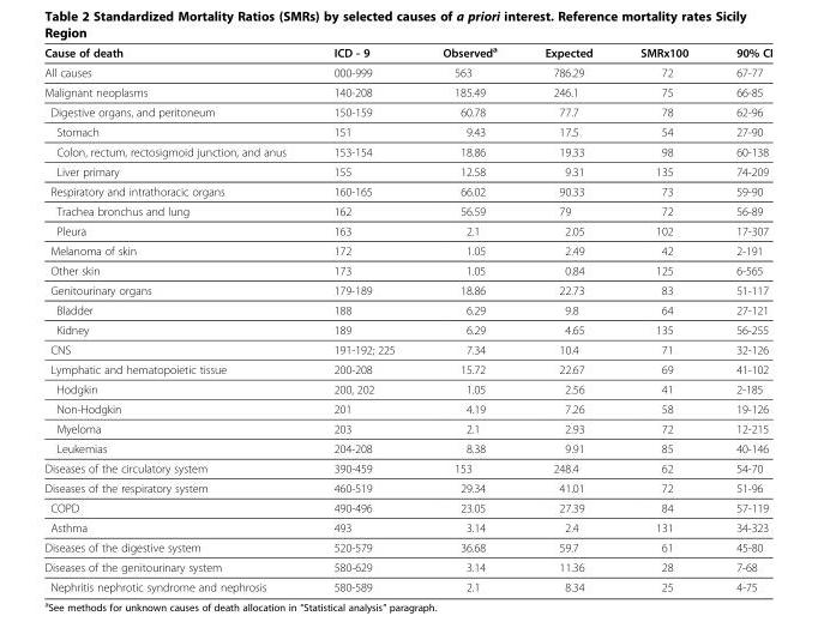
<table><thead><tr><td>Cause of death</td><td>ICD - 9</td><td>Observed<sup>a</sup></td><td>Expected</td><td>SMRx100</td><td>90% CI</td></tr></thead><tbody><tr><td>All causes</td><td>000-999</td><td>563</td><td>786.29</td><td>72</td><td>67-77</td></tr><tr><td>Malignant neoplasms</td><td>140-208</td><td>185.49</td><td>246.1</td><td>75</td><td>66-85</td></tr><tr><td>Digestive organs, and peritoneum</td><td>150-159</td><td>60.78</td><td>77.7</td><td>78</td><td>62-96</td></tr><tr><td>Stomach</td><td>151</td><td>9.43</td><td>17.5</td><td>54</td><td>27-90</td></tr><tr><td>Colon, rectum, rectosigmoid junction, and anus</td><td>153-154</td><td>18.86</td><td>19.33</td><td>98</td><td>60-138</td></tr><tr><td>Liver primary</td><td>155</td><td>12.58</td><td>9.31</td><td>135</td><td>74-209</td></tr><tr><td>Respiratory and intrathoracic organs</td><td>160-165</td><td>66.02</td><td>90.33</td><td>73</td><td>59-90</td></tr><tr><td>Trachea bronchus and lung</td><td>162</td><td>56.59</td><td>79</td><td>72</td><td>56-89</td></tr><tr><td>Pleura</td><td>163</td><td>2.1</td><td>2.05</td><td>102</td><td>17-307</td></tr><tr><td>Melanoma of skin</td><td>172</td><td>1.05</td><td>2.49</td><td>42</td><td>2-191</td></tr><tr><td>Other skin</td><td>173</td><td>1.05</td><td>0.84</td><td>125</td><td>6-565</td></tr><tr><td>Genitourinary organs</td><td>179-189</td><td>18.86</td><td>22.73</td><td>83</td><td>51-117</td></tr><tr><td>Bladder</td><td>188</td><td>6.29</td><td>9.8</td><td>64</td><td>27-121</td></tr><tr><td>Kidney</td><td>189</td><td>6.29</td><td>4.65</td><td>135</td><td>56-255</td></tr><tr><td>CNS</td><td>191-192; 225</td><td>7.34</td><td>10.4</td><td>71</td><td>32-126</td></tr><tr><td>Lymphatic and hematopoietic tissue</td><td>200-208</td><td>15.72</td><td>22.67</td><td>69</td><td>41-102</td></tr><tr><td>Hodgkin</td><td>200, 202</td><td>1.05</td><td>2.56</td><td>41</td><td>2-185</td></tr><tr><td>Non-Hodgkin</td><td>201</td><td>4.19</td><td>7.26</td><td>58</td><td>19-126</td></tr><tr><td>Myeloma</td><td>203</td><td>2.1</td><td>2.93</td><td>72</td><td>12-215</td></tr><tr><td>Leukemias</td><td>204-208</td><td>8.38</td><td>9.91</td><td>85</td><td>40-146</td></tr><tr><td>Diseases of the circulatory system</td><td>390-459</td><td>153</td><td>248.4</td><td>62</td><td>54-70</td></tr><tr><td>Diseases of the respiratory system</td><td>460-519</td><td>29.34</td><td>41.01</td><td>72</td><td>51-96</td></tr><tr><td>COPD</td><td>490-496</td><td>23.05</td><td>27.39</td><td>84</td><td>57-119</td></tr><tr><td>Asthma</td><td>493</td><td>3.14</td><td>2.4</td><td>131</td><td>34-323</td></tr><tr><td>Diseases of the digestive system</td><td>520-579</td><td>36.68</td><td>59.7</td><td>61</td><td>45-80</td></tr><tr><td>Diseases of the genitourinary system</td><td>580-629</td><td>3.14</td><td>11.36</td><td>28</td><td>7-68</td></tr><tr><td>Nephritis nephrotic syndrome and nephrosis</td><td>580-589</td><td>2.1</td><td>8.34</td><td>25</td><td>4-75</td></tr></tbody></table>